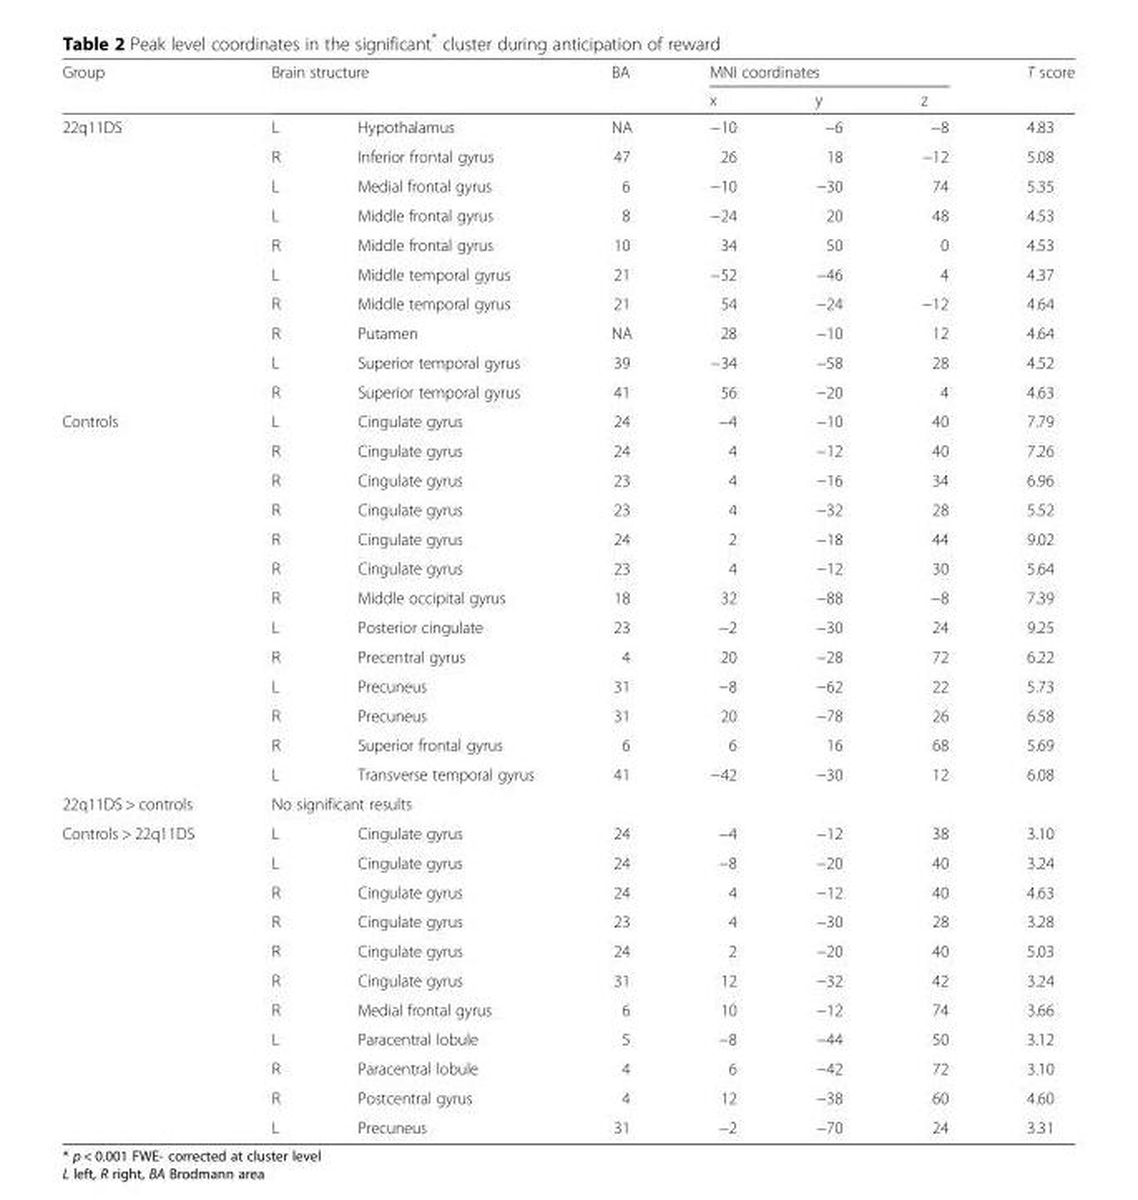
<table><thead><tr><td rowspan="2">Group</td><td colspan="2">Brain structure</td><td rowspan="2">BA</td><td colspan="3">MNI coordinates</td><td rowspan="2">T score</td></tr><tr><td></td><td></td><td>x</td><td>y</td><td>z</td></tr></thead><tbody><tr><td rowspan="10">22q11DS</td><td>L</td><td>Hypothalamus</td><td>NA</td><td>−10</td><td>−6</td><td>−8</td><td>4.83</td></tr><tr><td>R</td><td>Inferior frontal gyrus</td><td>47</td><td>26</td><td>18</td><td>−12</td><td>5.08</td></tr><tr><td>L</td><td>Medial frontal gyrus</td><td>6</td><td>−10</td><td>−30</td><td>74</td><td>5.35</td></tr><tr><td>L</td><td>Middle frontal gyrus</td><td>8</td><td>−24</td><td>20</td><td>48</td><td>4.53</td></tr><tr><td>R</td><td>Middle frontal gyrus</td><td>10</td><td>34</td><td>50</td><td>0</td><td>4.53</td></tr><tr><td>L</td><td>Middle temporal gyrus</td><td>21</td><td>−52</td><td>−46</td><td>4</td><td>4.37</td></tr><tr><td>R</td><td>Middle temporal gyrus</td><td>21</td><td>54</td><td>−24</td><td>−12</td><td>4.64</td></tr><tr><td>R</td><td>Putamen</td><td>NA</td><td>28</td><td>−10</td><td>12</td><td>4.64</td></tr><tr><td>L</td><td>Superior temporal gyrus</td><td>39</td><td>−34</td><td>−58</td><td>28</td><td>4.52</td></tr><tr><td>R</td><td>Superior temporal gyrus</td><td>41</td><td>56</td><td>−20</td><td>4</td><td>4.63</td></tr><tr><td rowspan="13">Controls</td><td>L</td><td>Cingulate gyrus</td><td>24</td><td>−4</td><td>−10</td><td>40</td><td>7.79</td></tr><tr><td>R</td><td>Cingulate gyrus</td><td>24</td><td>4</td><td>−12</td><td>40</td><td>7.26</td></tr><tr><td>R</td><td>Cingulate gyrus</td><td>23</td><td>4</td><td>−16</td><td>34</td><td>6.96</td></tr><tr><td>R</td><td>Cingulate gyrus</td><td>23</td><td>4</td><td>−32</td><td>28</td><td>5.52</td></tr><tr><td>R</td><td>Cingulate gyrus</td><td>24</td><td>2</td><td>−18</td><td>44</td><td>9.02</td></tr><tr><td>R</td><td>Cingulate gyrus</td><td>23</td><td>4</td><td>−12</td><td>30</td><td>5.64</td></tr><tr><td>R</td><td>Middle occipital gyrus</td><td>18</td><td>32</td><td>−88</td><td>−8</td><td>7.39</td></tr><tr><td>L</td><td>Posterior cingulate</td><td>23</td><td>−2</td><td>−30</td><td>24</td><td>9.25</td></tr><tr><td>R</td><td>Precentral gyrus</td><td>4</td><td>20</td><td>−28</td><td>72</td><td>6.22</td></tr><tr><td>L</td><td>Precuneus</td><td>31</td><td>−8</td><td>−62</td><td>22</td><td>5.73</td></tr><tr><td>R</td><td>Precuneus</td><td>31</td><td>20</td><td>−78</td><td>26</td><td>6.58</td></tr><tr><td>R</td><td>Superior frontal gyrus</td><td>6</td><td>6</td><td>16</td><td>68</td><td>5.69</td></tr><tr><td>L</td><td>Transverse temporal gyrus</td><td>41</td><td>−42</td><td>−30</td><td>12</td><td>6.08</td></tr><tr><td>22q11DS &gt; controls</td><td colspan="2">No significant results</td><td></td><td></td><td></td><td></td><td></td></tr><tr><td rowspan="11">Controls &gt; 22q11DS</td><td>L</td><td>Cingulate gyrus</td><td>24</td><td>−4</td><td>−12</td><td>38</td><td>3.10</td></tr><tr><td>L</td><td>Cingulate gyrus</td><td>24</td><td>−8</td><td>−20</td><td>40</td><td>3.24</td></tr><tr><td>R</td><td>Cingulate gyrus</td><td>24</td><td>4</td><td>−12</td><td>40</td><td>4.63</td></tr><tr><td>R</td><td>Cingulate gyrus</td><td>23</td><td>4</td><td>−30</td><td>28</td><td>3.28</td></tr><tr><td>R</td><td>Cingulate gyrus</td><td>24</td><td>2</td><td>−20</td><td>40</td><td>5.03</td></tr><tr><td>R</td><td>Cingulate gyrus</td><td>31</td><td>12</td><td>−32</td><td>42</td><td>3.24</td></tr><tr><td>R</td><td>Medial frontal gyrus</td><td>6</td><td>10</td><td>−12</td><td>74</td><td>3.66</td></tr><tr><td>L</td><td>Paracentral lobule</td><td>5</td><td>−8</td><td>−44</td><td>50</td><td>3.12</td></tr><tr><td>R</td><td>Paracentral lobule</td><td>4</td><td>6</td><td>−42</td><td>72</td><td>3.10</td></tr><tr><td>R</td><td>Postcentral gyrus</td><td>4</td><td>12</td><td>−38</td><td>60</td><td>4.60</td></tr><tr><td>L</td><td>Precuneus</td><td>31</td><td>−2</td><td>−70</td><td>24</td><td>3.31</td></tr></tbody></table>